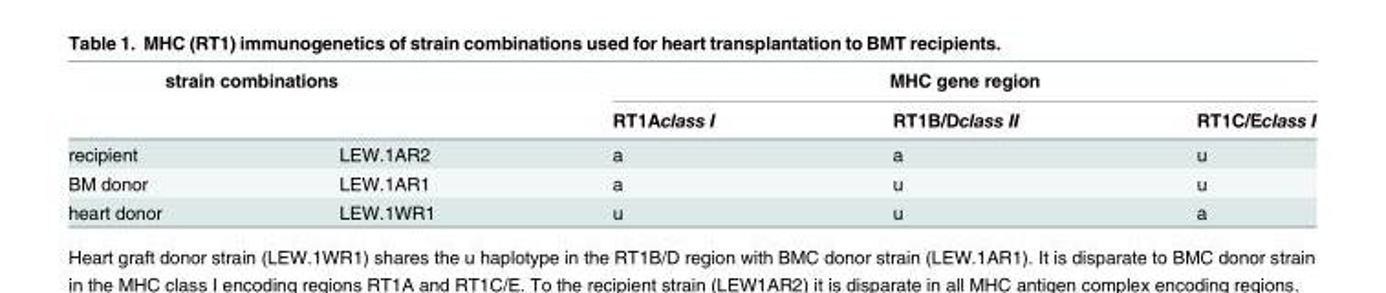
<table><thead><tr><td colspan="2">strain combinations</td><td colspan="3">MHC gene region</td></tr><tr><td></td><td></td><td>RT1Aclass I</td><td>RT1B/Dclass II</td><td>RT1C/Eclass I</td></tr></thead><tbody><tr><td>recipient</td><td>LEW.1AR2</td><td>a</td><td>a</td><td>u</td></tr><tr><td>BM donor</td><td>LEW.1AR1</td><td>a</td><td>u</td><td>u</td></tr><tr><td>heart donor</td><td>LEW.1WR1</td><td>u</td><td>u</td><td>a</td></tr></tbody></table>